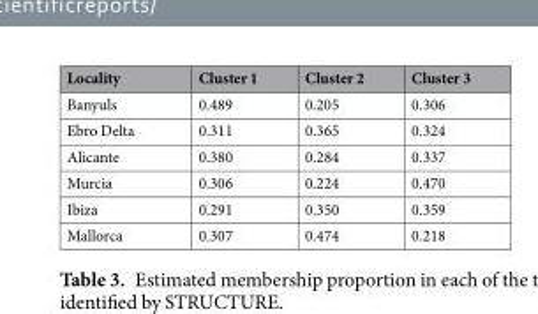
<table><thead><tr><td>Locality</td><td>Cluster 1</td><td>Cluster 2</td><td>Cluster 3</td></tr></thead><tbody><tr><td>Banyuls</td><td>0.489</td><td>0.205</td><td>0.306</td></tr><tr><td>Ebro Delta</td><td>0.311</td><td>0.365</td><td>0.324</td></tr><tr><td>Alicante</td><td>0.380</td><td>0.284</td><td>0.337</td></tr><tr><td>Murcia</td><td>0.306</td><td>0.224</td><td>0.470</td></tr><tr><td>Ibiza</td><td>0.291</td><td>0.350</td><td>0.359</td></tr><tr><td>Mallorca</td><td>0.307</td><td>0.474</td><td>0.218</td></tr></tbody></table>